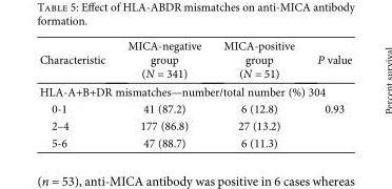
<table><thead><tr><td>Characteristic</td><td>MICA-negative group (N = 341)</td><td>MICA-positive group (N = 51)</td><td>P value</td></tr></thead><tbody><tr><td colspan="4">HLA-A+B+DR mismatches—number/total number (%) 304</td></tr><tr><td>0-1</td><td>41 (87.2)</td><td>6 (12.8)</td><td>0.93</td></tr><tr><td>2–4</td><td>177 (86.8)</td><td>27 (13.2)</td><td></td></tr><tr><td>5-6</td><td>47 (88.7)</td><td>6 (11.3)</td><td></td></tr></tbody></table>